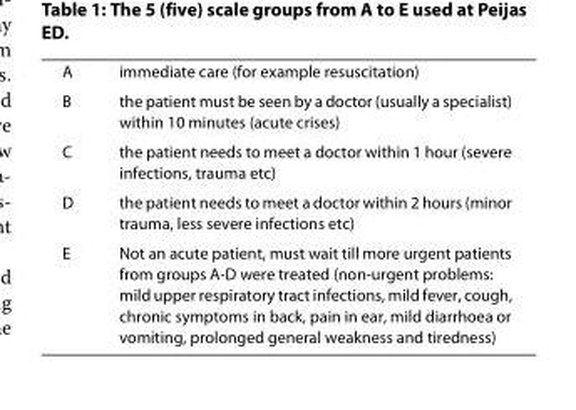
<table><tbody><tr><td>A</td><td>immediate care (for example resuscitation)</td></tr><tr><td>B</td><td>the patient must be seen by a doctor (usually a specialist) within 10 minutes (acute crises)</td></tr><tr><td>C</td><td>the patient needs to meet a doctor within 1 hour (severe infections, trauma etc)</td></tr><tr><td>D</td><td>the patient needs to meet a doctor within 2 hours (minor trauma, less severe infections etc)</td></tr><tr><td>E</td><td>Not an acute patient, must wait till more urgent patients from groups A-D were treated (non-urgent problems: mild upper respiratory tract infections, mild fever, cough, chronic symptoms in back, pain in ear, mild diarrhoea or vomiting, prolonged general weakness and tiredness)</td></tr></tbody></table>